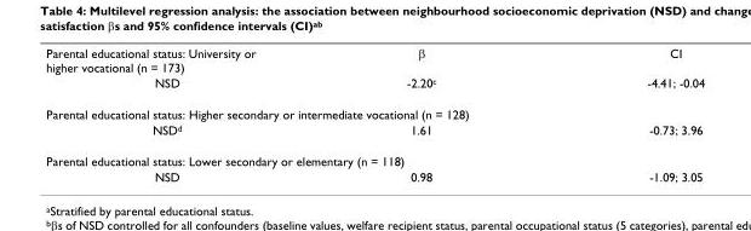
<table><tbody><tr><td>Parental educational status: University or higher vocational (n = 173)</td><td>β</td><td>CI</td></tr><tr><td>NSD</td><td>-2.20c</td><td>-4.41; -0.04</td></tr><tr><td colspan="3">Parental educational status: Higher secondary or intermediate vocational (n = 128)</td></tr><tr><td>NSDd</td><td>1.61</td><td>-0.73; 3.96</td></tr><tr><td colspan="3">Parental educational status: Lower secondary or elementary (n = 118)</td></tr><tr><td>NSD</td><td>0.98</td><td>-1.09; 3.05</td></tr></tbody></table>